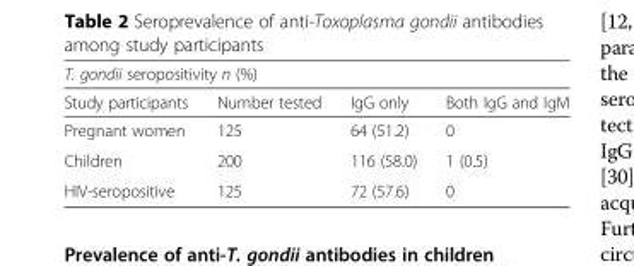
<table><thead><tr><td colspan="4">T. gondii seropositivity n (%)</td></tr><tr><td>Study participants</td><td>Number tested</td><td>IgG only</td><td>Both IgG and IgM</td></tr></thead><tbody><tr><td>Pregnant women</td><td>125</td><td>64 (51.2)</td><td>0</td></tr><tr><td>Children</td><td>200</td><td>116 (58.0)</td><td>1 (0.5)</td></tr><tr><td>HIV-seropositive</td><td>125</td><td>72 (57.6)</td><td>0</td></tr></tbody></table>